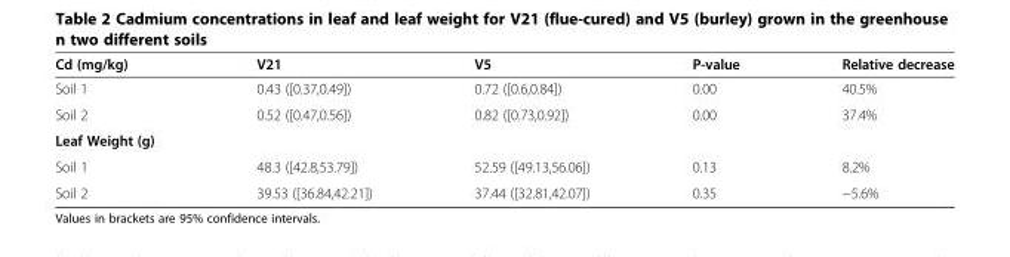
<table><thead><tr><td>Cd (mg/kg)</td><td>V21</td><td>V5</td><td>P-value</td><td>Relative decrease</td></tr></thead><tbody><tr><td>Soil 1</td><td>0.43 ([0.37,0.49])</td><td>0.72 ([0.6,0.84])</td><td>0.00</td><td>40.5%</td></tr><tr><td>Soil 2</td><td>0.52 ([0.47,0.56])</td><td>0.82 ([0.73,0.92])</td><td>0.00</td><td>37.4%</td></tr><tr><td colspan="5">Leaf Weight (g)</td></tr><tr><td>Soil 1</td><td>48.3 ([42.8,53.79])</td><td>52.59 ([49.13,56.06])</td><td>0.13</td><td>8.2%</td></tr><tr><td>Soil 2</td><td>39.53 ([36.84,42.21])</td><td>37.44 ([32.81,42.07])</td><td>0.35</td><td>−5.6%</td></tr></tbody></table>